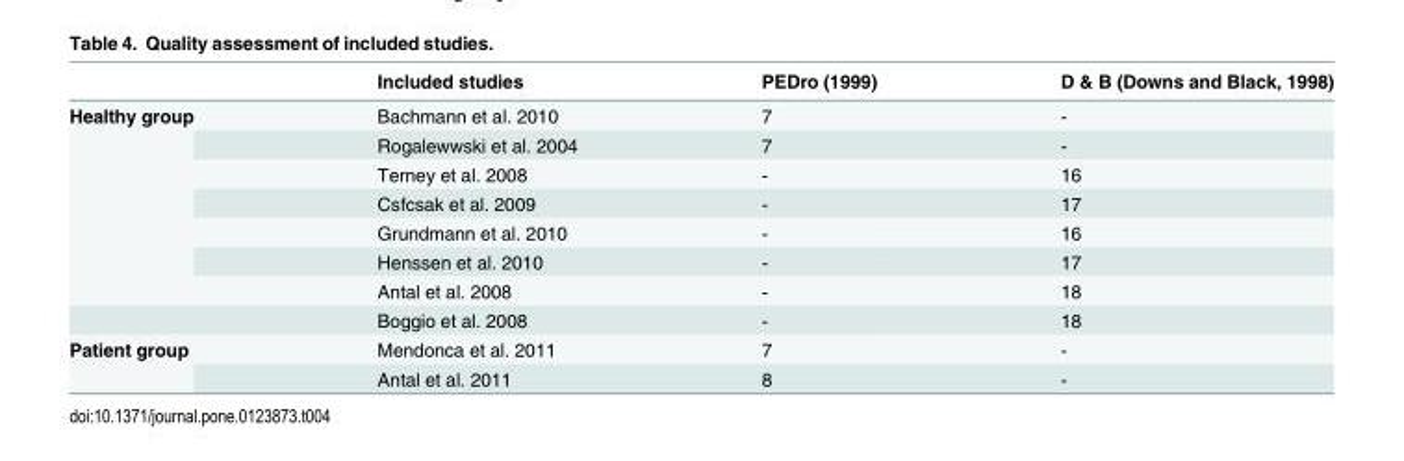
<table><thead><tr><td></td><td>Included studies</td><td>PEDro (1999)</td><td>D &amp; B (Downs and Black, 1998)</td></tr></thead><tbody><tr><td rowspan="8">Healthy group</td><td>Bachmann et al. 2010</td><td>7</td><td>-</td></tr><tr><td>Rogalewwski et al. 2004</td><td>7</td><td>-</td></tr><tr><td>Terney et al. 2008</td><td>-</td><td>16</td></tr><tr><td>Csfcsak et al. 2009</td><td>-</td><td>17</td></tr><tr><td>Grundmann et al. 2010</td><td>-</td><td>16</td></tr><tr><td>Henssen et al. 2010</td><td>-</td><td>17</td></tr><tr><td>Antal et al. 2008</td><td>-</td><td>18</td></tr><tr><td>Boggio et al. 2008</td><td>-</td><td>18</td></tr><tr><td rowspan="2">Patient group</td><td>Mendonca et al. 2011</td><td>7</td><td>-</td></tr><tr><td>Antal et al. 2011</td><td>8</td><td>-</td></tr></tbody></table>